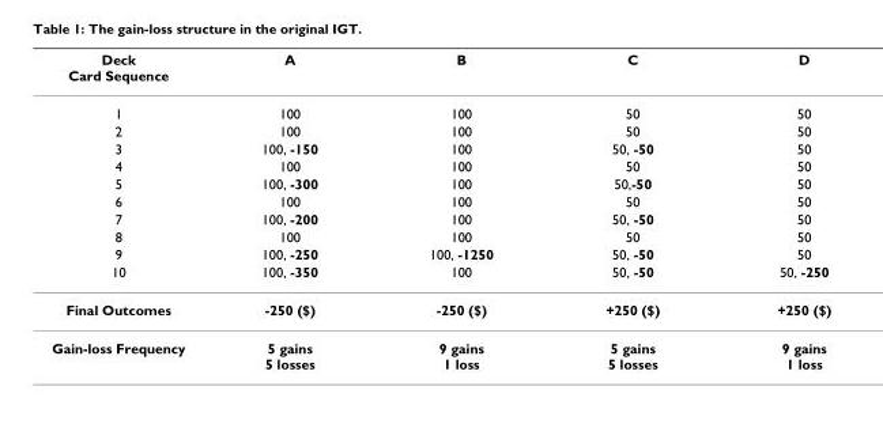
<table><thead><tr><td>Deck Card Sequence</td><td>A</td><td>B</td><td>C</td><td>D</td></tr></thead><tbody><tr><td>1</td><td>100</td><td>100</td><td>50</td><td>50</td></tr><tr><td>2</td><td>100</td><td>100</td><td>50</td><td>50</td></tr><tr><td>3</td><td>100, -150</td><td>100</td><td>50, -50</td><td>50</td></tr><tr><td>4</td><td>100</td><td>100</td><td>50</td><td>50</td></tr><tr><td>5</td><td>100, -300</td><td>100</td><td>50,-50</td><td>50</td></tr><tr><td>6</td><td>100</td><td>100</td><td>50</td><td>50</td></tr><tr><td>7</td><td>100, -200</td><td>100</td><td>50, -50</td><td>50</td></tr><tr><td>8</td><td>100</td><td>100</td><td>50</td><td>50</td></tr><tr><td>9</td><td>100, -250</td><td>100, -1250</td><td>50, -50</td><td>50</td></tr><tr><td>10</td><td>100, -350</td><td>100</td><td>50, -50</td><td>50, -250</td></tr><tr><td>Final Outcomes</td><td>-250 ($)</td><td>-250 ($)</td><td>+250 ($)</td><td>+250 ($)</td></tr><tr><td>Gain-loss Frequency</td><td>5 gains 5 losses</td><td>9 gains 1 loss</td><td>5 gains 5 losses</td><td>9 gains 1 loss</td></tr></tbody></table>